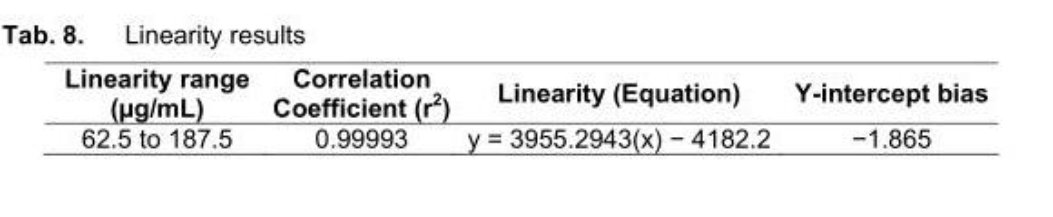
<table><thead><tr><td>Linearity range (µg/mL)</td><td>Correlation Coefficient (r<sup>2</sup>)</td><td>Linearity (Equation)</td><td>Y-intercept bias</td></tr></thead><tbody><tr><td>62.5 to 187.5</td><td>0.99993</td><td>y = 3955.2943(x) − 4182.2</td><td>−1.865</td></tr></tbody></table>